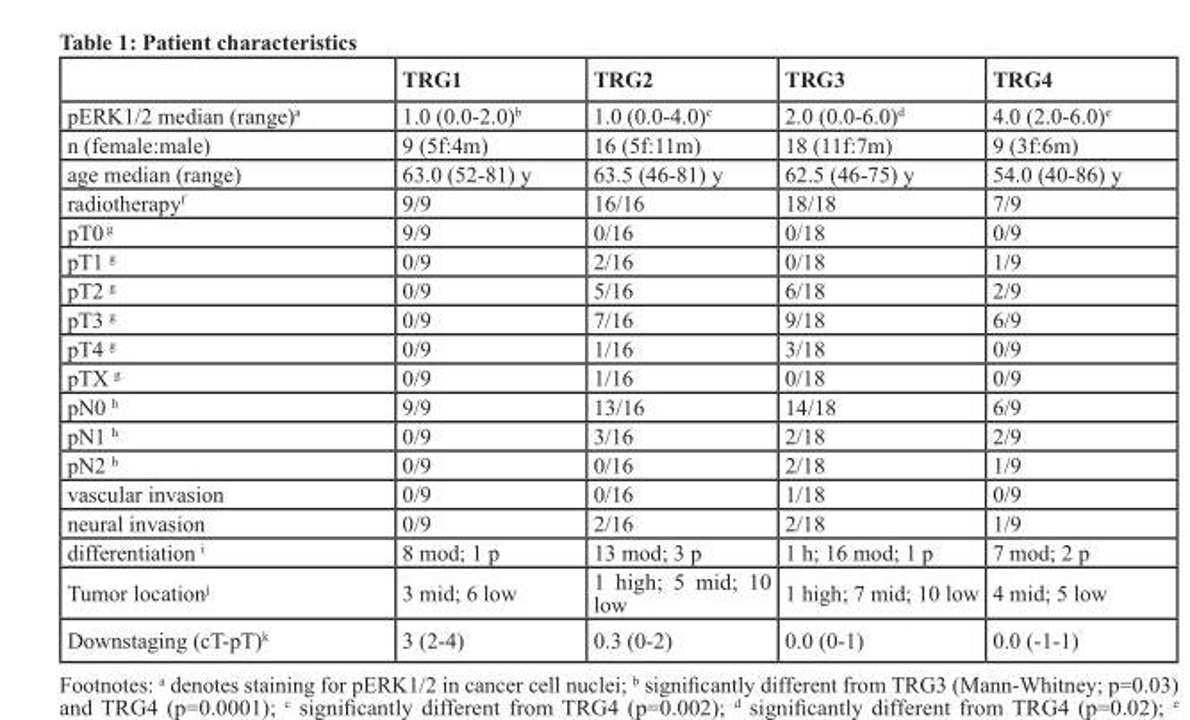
<table><thead><tr><td></td><td>TRG1</td><td>TRG2</td><td>TRG3</td><td>TRG4</td></tr></thead><tbody><tr><td>pERK1/2 median (range)<sup>a</sup></td><td>1.0 (0.0-2.0)<sup>b</sup></td><td>1.0 (0.0-4.0)<sup>c</sup></td><td>2.0 (0.0-6.0)<sup>d</sup></td><td>4.0 (2.0-6.0)<sup>e</sup></td></tr><tr><td>n (female:male)</td><td>9 (5f:4m)</td><td>16 (5f:11m)</td><td>18 (11f:7m)</td><td>9 (3f:6m)</td></tr><tr><td>age median (range)</td><td>63.0 (52-81) y</td><td>63.5 (46-81) y</td><td>62.5 (46-75) y</td><td>54.0 (40-86) y</td></tr><tr><td>radiotherapy<sup>f</sup></td><td>9/9</td><td>16/16</td><td>18/18</td><td>7/9</td></tr><tr><td>pT0 <sup>g</sup></td><td>9/9</td><td>0/16</td><td>0/18</td><td>0/9</td></tr><tr><td>pT1 <sup>g</sup></td><td>0/9</td><td>2/16</td><td>0/18</td><td>1/9</td></tr><tr><td>pT2 <sup>g</sup></td><td>0/9</td><td>5/16</td><td>6/18</td><td>2/9</td></tr><tr><td>pT3 <sup>g</sup></td><td>0/9</td><td>7/16</td><td>9/18</td><td>6/9</td></tr><tr><td>pT4 <sup>g</sup></td><td>0/9</td><td>1/16</td><td>3/18</td><td>0/9</td></tr><tr><td>pTX <sup>g</sup></td><td>0/9</td><td>1/16</td><td>0/18</td><td>0/9</td></tr><tr><td>pN0 <sup>h</sup></td><td>9/9</td><td>13/16</td><td>14/18</td><td>6/9</td></tr><tr><td>pN1 <sup>h</sup></td><td>0/9</td><td>3/16</td><td>2/18</td><td>2/9</td></tr><tr><td>pN2 <sup>h</sup></td><td>0/9</td><td>0/16</td><td>2/18</td><td>1/9</td></tr><tr><td>vascular invasion</td><td>0/9</td><td>0/16</td><td>1/18</td><td>0/9</td></tr><tr><td>neural invasion</td><td>0/9</td><td>2/16</td><td>2/18</td><td>1/9</td></tr><tr><td>differentiation <sup>i</sup></td><td>8 mod; 1 p</td><td>13 mod; 3 p</td><td>1 h; 16 mod; 1 p</td><td>7 mod; 2 p</td></tr><tr><td>Tumor location<sup>j</sup></td><td>3 mid; 6 low</td><td>1 high; 5 mid; 10 low</td><td>1 high; 7 mid; 10 low</td><td>4 mid; 5 low</td></tr><tr><td>Downstaging (cT-pT)<sup>k</sup></td><td>3 (2-4)</td><td>0.3 (0-2)</td><td>0.0 (0-1)</td><td>0.0 (-1-1)</td></tr></tbody></table>